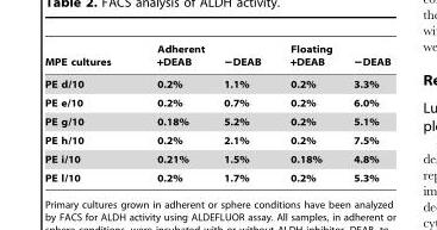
<table><thead><tr><td>MPE cultures</td><td>Adherent +DEAB</td><td>−DEAB</td><td>Floating +DEAB</td><td>−DEAB</td></tr></thead><tbody><tr><td>PE d/10</td><td>0.2%</td><td>1.1%</td><td>0.2%</td><td>3.3%</td></tr><tr><td>PE e/10</td><td>0.2%</td><td>0.7%</td><td>0.2%</td><td>6.0%</td></tr><tr><td>PE g/10</td><td>0.18%</td><td>5.2%</td><td>0.2%</td><td>5.1%</td></tr><tr><td>PE h/10</td><td>0.2%</td><td>2.1%</td><td>0.2%</td><td>7.5%</td></tr><tr><td>PE i/10</td><td>0.21%</td><td>1.5%</td><td>0.18%</td><td>4.8%</td></tr><tr><td>PE l/10</td><td>0.2%</td><td>1.7%</td><td>0.2%</td><td>5.3%</td></tr></tbody></table>